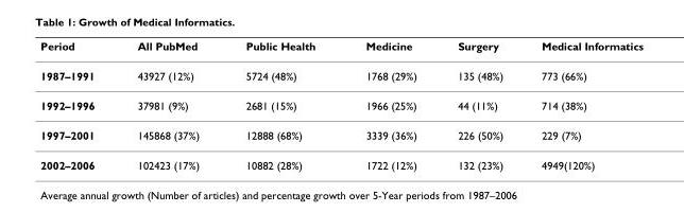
<table><thead><tr><td>Period</td><td>All PubMed</td><td>Public Health</td><td>Medicine</td><td>Surgery</td><td>Medical Informatics</td></tr></thead><tbody><tr><td>1987–1991</td><td>43927 (12%)</td><td>5724 (48%)</td><td>1768 (29%)</td><td>135 (48%)</td><td>773 (66%)</td></tr><tr><td>1992–1996</td><td>37981 (9%)</td><td>2681 (15%)</td><td>1966 (25%)</td><td>44 (11%)</td><td>714 (38%)</td></tr><tr><td>1997–2001</td><td>145868 (37%)</td><td>12888 (68%)</td><td>3339 (36%)</td><td>226 (50%)</td><td>229 (7%)</td></tr><tr><td>2002–2006</td><td>102423 (17%)</td><td>10882 (28%)</td><td>1722 (12%)</td><td>132 (23%)</td><td>4949(120%)</td></tr></tbody></table>